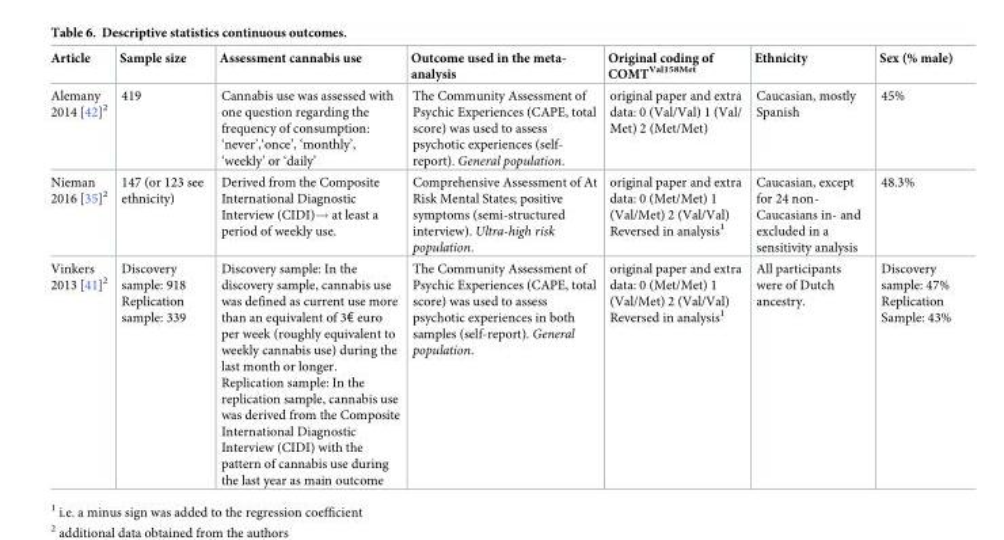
<table><thead><tr><td>Article</td><td>Sample size</td><td>Assessment cannabis use</td><td>Outcome used in the meta- analysis</td><td>Original coding of COMT<sup>Val158Met</sup></td><td>Ethnicity</td><td>Sex (% male)</td></tr></thead><tbody><tr><td>Alemany 2014 [42]<sup>2</sup></td><td>419</td><td>Cannabis use was assessed with one question regarding the frequency of consumption: ‘never’,‘once’, ‘monthly’, ‘weekly’ or ‘daily’</td><td>The Community Assessment of Psychic Experiences (CAPE, total score) was used to assess psychotic experiences (self- report). General population.</td><td>original paper and extra data: 0 (Val/Val) 1 (Val/ Met) 2 (Met/Met)</td><td>Caucasian, mostly Spanish</td><td>45%</td></tr><tr><td>Nieman 2016 [35]<sup>2</sup></td><td>147 (or 123 see ethnicity)</td><td>Derived from the Composite International Diagnostic Interview (CIDI)→ at least a period of weekly use.</td><td>Comprehensive Assessment of At Risk Mental States; positive symptoms (semi-structured interview). Ultra-high risk population.</td><td>original paper and extra data: 0 (Met/Met) 1 (Val/Met) 2 (Val/Val) Reversed in analysis<sup>1</sup></td><td>Caucasian, except for 24 non- Caucasians in- and excluded in a sensitivity analysis</td><td>48.3%</td></tr><tr><td>Vinkers 2013 [41]<sup>2</sup></td><td>Discovery sample: 918 Replication sample: 339</td><td>Discovery sample: In the discovery sample, cannabis use was defined as current use more than an equivalent of 3€ euro per week (roughly equivalent to weekly cannabis use) during the last month or longer. Replication sample: In the replication sample, cannabis use was derived from the Composite International Diagnostic Interview (CIDI) with the pattern of cannabis use during the last year as main outcome</td><td>The Community Assessment of Psychic Experiences (CAPE, total score) was used to assess psychotic experiences in both samples (self-report). General population.</td><td>original paper and extra data: 0 (Met/Met) 1 (Val/Met) 2 (Val/Val) Reversed in analysis<sup>1</sup></td><td>All participants were of Dutch ancestry.</td><td>Discovery sample: 47% Replication Sample: 43%</td></tr></tbody></table>